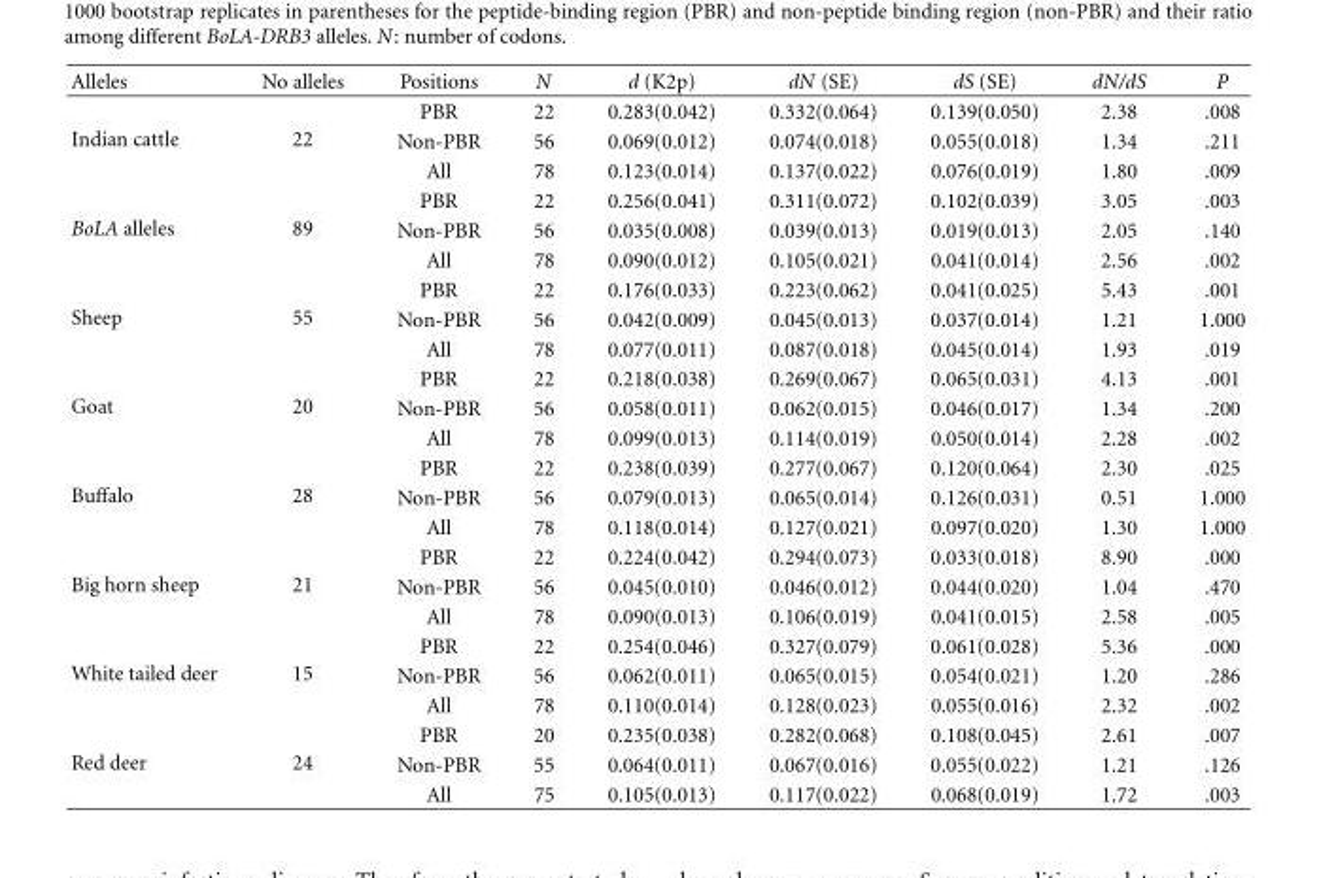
<table><thead><tr><td>Alleles</td><td>No alleles</td><td>Positions</td><td>N</td><td>d (K2p)</td><td>dN (SE)</td><td>dS (SE)</td><td>dN/dS</td><td>P</td></tr></thead><tbody><tr><td rowspan="3">Indian cattle</td><td rowspan="3">22</td><td>PBR</td><td>22</td><td>0.283(0.042)</td><td>0.332(0.064)</td><td>0.139(0.050)</td><td>2.38</td><td>.008</td></tr><tr><td>Non-PBR</td><td>56</td><td>0.069(0.012)</td><td>0.074(0.018)</td><td>0.055(0.018)</td><td>1.34</td><td>.211</td></tr><tr><td>All</td><td>78</td><td>0.123(0.014)</td><td>0.137(0.022)</td><td>0.076(0.019)</td><td>1.80</td><td>.009</td></tr><tr><td rowspan="3">BoLA alleles</td><td rowspan="3">89</td><td>PBR</td><td>22</td><td>0.256(0.041)</td><td>0.311(0.072)</td><td>0.102(0.039)</td><td>3.05</td><td>.003</td></tr><tr><td>Non-PBR</td><td>56</td><td>0.035(0.008)</td><td>0.039(0.013)</td><td>0.019(0.013)</td><td>2.05</td><td>.140</td></tr><tr><td>All</td><td>78</td><td>0.090(0.012)</td><td>0.105(0.021)</td><td>0.041(0.014)</td><td>2.56</td><td>.002</td></tr><tr><td rowspan="3">Sheep</td><td rowspan="3">55</td><td>PBR</td><td>22</td><td>0.176(0.033)</td><td>0.223(0.062)</td><td>0.041(0.025)</td><td>5.43</td><td>.001</td></tr><tr><td>Non-PBR</td><td>56</td><td>0.042(0.009)</td><td>0.045(0.013)</td><td>0.037(0.014)</td><td>1.21</td><td>1.000</td></tr><tr><td>All</td><td>78</td><td>0.077(0.011)</td><td>0.087(0.018)</td><td>0.045(0.014)</td><td>1.93</td><td>.019</td></tr><tr><td rowspan="3">Goat</td><td rowspan="3">20</td><td>PBR</td><td>22</td><td>0.218(0.038)</td><td>0.269(0.067)</td><td>0.065(0.031)</td><td>4.13</td><td>.001</td></tr><tr><td>Non-PBR</td><td>56</td><td>0.058(0.011)</td><td>0.062(0.015)</td><td>0.046(0.017)</td><td>1.34</td><td>.200</td></tr><tr><td>All</td><td>78</td><td>0.099(0.013)</td><td>0.114(0.019)</td><td>0.050(0.014)</td><td>2.28</td><td>.002</td></tr><tr><td rowspan="3">Buffalo</td><td rowspan="3">28</td><td>PBR</td><td>22</td><td>0.238(0.039)</td><td>0.277(0.067)</td><td>0.120(0.064)</td><td>2.30</td><td>.025</td></tr><tr><td>Non-PBR</td><td>56</td><td>0.079(0.013)</td><td>0.065(0.014)</td><td>0.126(0.031)</td><td>0.51</td><td>1.000</td></tr><tr><td>All</td><td>78</td><td>0.118(0.014)</td><td>0.127(0.021)</td><td>0.097(0.020)</td><td>1.30</td><td>1.000</td></tr><tr><td rowspan="3">Big horn sheep</td><td rowspan="3">21</td><td>PBR</td><td>22</td><td>0.224(0.042)</td><td>0.294(0.073)</td><td>0.033(0.018)</td><td>8.90</td><td>.000</td></tr><tr><td>Non-PBR</td><td>56</td><td>0.045(0.010)</td><td>0.046(0.012)</td><td>0.044(0.020)</td><td>1.04</td><td>.470</td></tr><tr><td>All</td><td>78</td><td>0.090(0.013)</td><td>0.106(0.019)</td><td>0.041(0.015)</td><td>2.58</td><td>.005</td></tr><tr><td rowspan="3">White tailed deer</td><td rowspan="3">15</td><td>PBR</td><td>22</td><td>0.254(0.046)</td><td>0.327(0.079)</td><td>0.061(0.028)</td><td>5.36</td><td>.000</td></tr><tr><td>Non-PBR</td><td>56</td><td>0.062(0.011)</td><td>0.065(0.015)</td><td>0.054(0.021)</td><td>1.20</td><td>.286</td></tr><tr><td>All</td><td>78</td><td>0.110(0.014)</td><td>0.128(0.023)</td><td>0.055(0.016)</td><td>2.32</td><td>.002</td></tr><tr><td rowspan="3">Red deer</td><td rowspan="3">24</td><td>PBR</td><td>20</td><td>0.235(0.038)</td><td>0.282(0.068)</td><td>0.108(0.045)</td><td>2.61</td><td>.007</td></tr><tr><td>Non-PBR</td><td>55</td><td>0.064(0.011)</td><td>0.067(0.016)</td><td>0.055(0.022)</td><td>1.21</td><td>.126</td></tr><tr><td>All</td><td>75</td><td>0.105(0.013)</td><td>0.117(0.022)</td><td>0.068(0.019)</td><td>1.72</td><td>.003</td></tr></tbody></table>